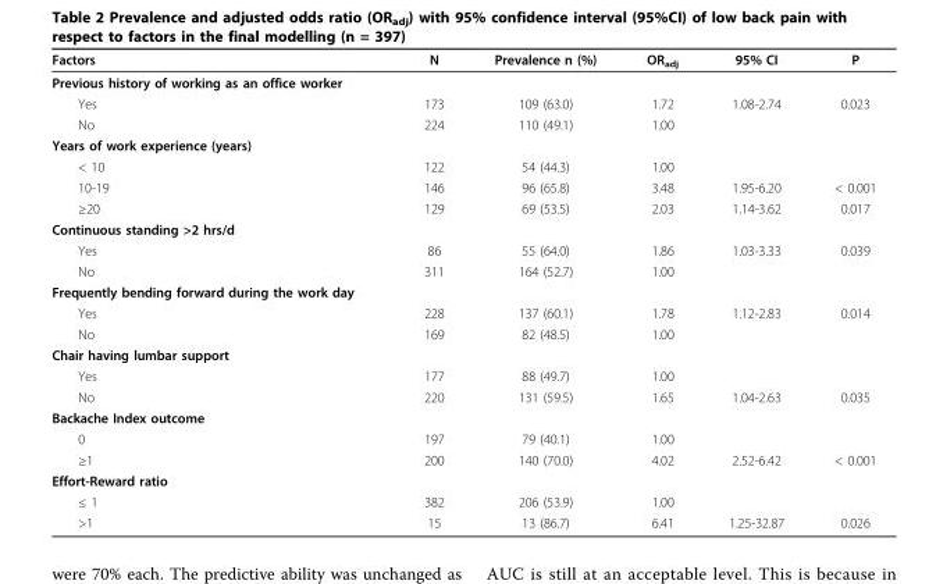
<table><thead><tr><td>Factors</td><td>N</td><td>Prevalence n (%)</td><td>OR<sub>adj</sub></td><td>95% CI</td><td>P</td></tr></thead><tbody><tr><td colspan="6">Previous history of working as an office worker</td></tr><tr><td>Yes</td><td>173</td><td>109 (63.0)</td><td>1.72</td><td>1.08-2.74</td><td>0.023</td></tr><tr><td>No</td><td>224</td><td>110 (49.1)</td><td>1.00</td><td></td><td></td></tr><tr><td colspan="6">Years of work experience (years)</td></tr><tr><td>&lt; 10</td><td>122</td><td>54 (44.3)</td><td>1.00</td><td></td><td></td></tr><tr><td>10-19</td><td>146</td><td>96 (65.8)</td><td>3.48</td><td>1.95-6.20</td><td>&lt; 0.001</td></tr><tr><td>≥20</td><td>129</td><td>69 (53.5)</td><td>2.03</td><td>1.14-3.62</td><td>0.017</td></tr><tr><td colspan="6">Continuous standing &gt;2 hrs/d</td></tr><tr><td>Yes</td><td>86</td><td>55 (64.0)</td><td>1.86</td><td>1.03-3.33</td><td>0.039</td></tr><tr><td>No</td><td>311</td><td>164 (52.7)</td><td>1.00</td><td></td><td></td></tr><tr><td colspan="6">Frequently bending forward during the work day</td></tr><tr><td>Yes</td><td>228</td><td>137 (60.1)</td><td>1.78</td><td>1.12-2.83</td><td>0.014</td></tr><tr><td>No</td><td>169</td><td>82 (48.5)</td><td>1.00</td><td></td><td></td></tr><tr><td colspan="6">Chair having lumbar support</td></tr><tr><td>Yes</td><td>177</td><td>88 (49.7)</td><td>1.00</td><td></td><td></td></tr><tr><td>No</td><td>220</td><td>131 (59.5)</td><td>1.65</td><td>1.04-2.63</td><td>0.035</td></tr><tr><td colspan="6">Backache Index outcome</td></tr><tr><td>0</td><td>197</td><td>79 (40.1)</td><td>1.00</td><td></td><td></td></tr><tr><td>≥1</td><td>200</td><td>140 (70.0)</td><td>4.02</td><td>2.52-6.42</td><td>&lt; 0.001</td></tr><tr><td colspan="6">Effort-Reward ratio</td></tr><tr><td>≤ 1</td><td>382</td><td>206 (53.9)</td><td>1.00</td><td></td><td></td></tr><tr><td>&gt;1</td><td>15</td><td>13 (86.7)</td><td>6.41</td><td>1.25-32.87</td><td>0.026</td></tr></tbody></table>